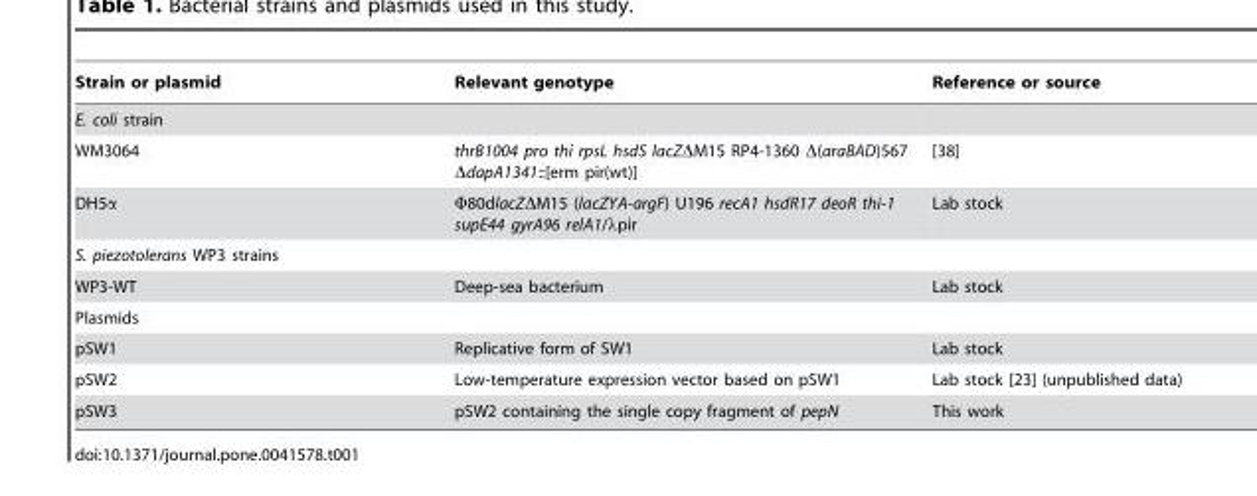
<table><thead><tr><td>Strain or plasmid</td><td>Relevant genotype</td><td>Reference or source</td></tr></thead><tbody><tr><td colspan="3">E. coli strain</td></tr><tr><td>WM3064</td><td>thrB1004 pro thi rpsL hsdS lacZΔM15 RP4-1360 Δ(araBAD)567 ΔdapA1341::[erm pir(wt)]</td><td>[38]</td></tr><tr><td>DH5α</td><td>Φ80dlacZΔM15 (lacZYA-argF) U196 recA1 hsdR17 deoR thi-1 supE44 gyrA96 relA1/λpir</td><td>Lab stock</td></tr><tr><td colspan="3">S. piezotolerans WP3 strains</td></tr><tr><td>WP3-WT</td><td>Deep-sea bacterium</td><td>Lab stock</td></tr><tr><td colspan="3">Plasmids</td></tr><tr><td>pSW1</td><td>Replicative form of SW1</td><td>Lab stock</td></tr><tr><td>pSW2</td><td>Low-temperature expression vector based on pSW1</td><td>Lab stock [23] (unpublished data)</td></tr><tr><td>pSW3</td><td>pSW2 containing the single copy fragment of pepN</td><td>This work</td></tr></tbody></table>